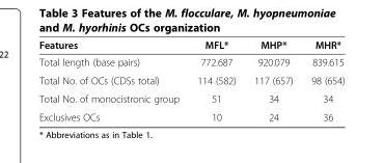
<table><thead><tr><td>Features</td><td>MFL*</td><td>MHP*</td><td>MHR*</td></tr></thead><tbody><tr><td>Total length (base pairs)</td><td>772.687</td><td>920.079</td><td>839.615</td></tr><tr><td>Total No. of OCs (CDSs total)</td><td>114 (582)</td><td>117 (657)</td><td>98 (654)</td></tr><tr><td>Total No. of monocistronic group</td><td>51</td><td>34</td><td>34</td></tr><tr><td>Exclusives OCs</td><td>10</td><td>24</td><td>36</td></tr></tbody></table>